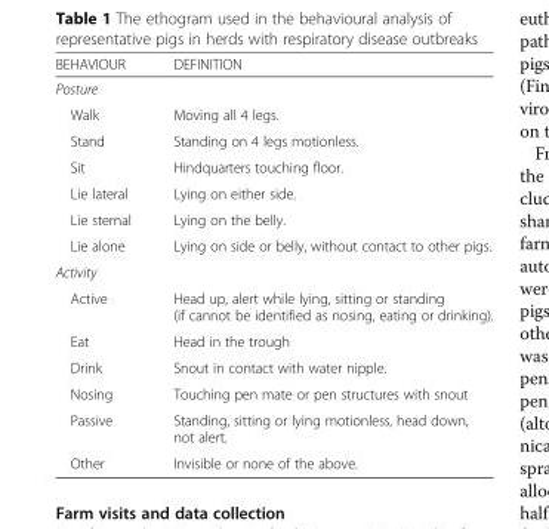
<table><thead><tr><td>BEHAVIOUR</td><td>DEFINITION</td></tr></thead><tbody><tr><td colspan="2">Posture</td></tr><tr><td>Walk</td><td>Moving all 4 legs.</td></tr><tr><td>Stand</td><td>Standing on 4 legs motionless.</td></tr><tr><td>Sit</td><td>Hindquarters touching floor.</td></tr><tr><td>Lie lateral</td><td>Lying on either side.</td></tr><tr><td>Lie sternal</td><td>Lying on the belly.</td></tr><tr><td>Lie alone</td><td>Lying on side or belly, without contact to other pigs.</td></tr><tr><td colspan="2">Activity</td></tr><tr><td>Active</td><td>Head up, alert while lying, sitting or standing (if cannot be identified as nosing, eating or drinking).</td></tr><tr><td>Eat</td><td>Head in the trough</td></tr><tr><td>Drink</td><td>Snout in contact with water nipple.</td></tr><tr><td>Nosing</td><td>Touching pen mate or pen structures with snout</td></tr><tr><td>Passive</td><td>Standing, sitting or lying motionless, head down, not alert.</td></tr><tr><td>Other</td><td>Invisible or none of the above.</td></tr></tbody></table>